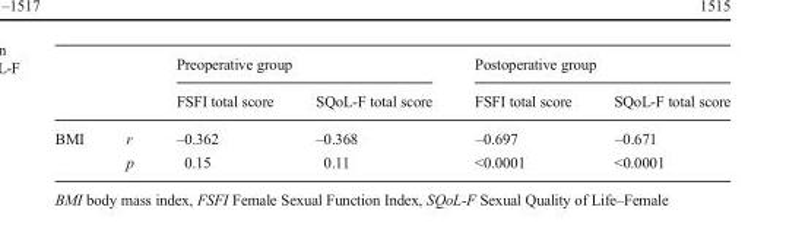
<table><thead><tr><td rowspan="2"></td><td rowspan="2"></td><td colspan="2">Preoperative group</td><td colspan="2">Postoperative group</td></tr><tr><td>FSFI total score</td><td>SQoL-F total score</td><td>FSFI total score</td><td>SQoL-F total score</td></tr></thead><tbody><tr><td rowspan="2">BMI</td><td>r</td><td>–0.362</td><td>–0.368</td><td>–0.697</td><td>–0.671</td></tr><tr><td>p</td><td>0.15</td><td>0.11</td><td>&lt;0.0001</td><td>&lt;0.0001</td></tr></tbody></table>